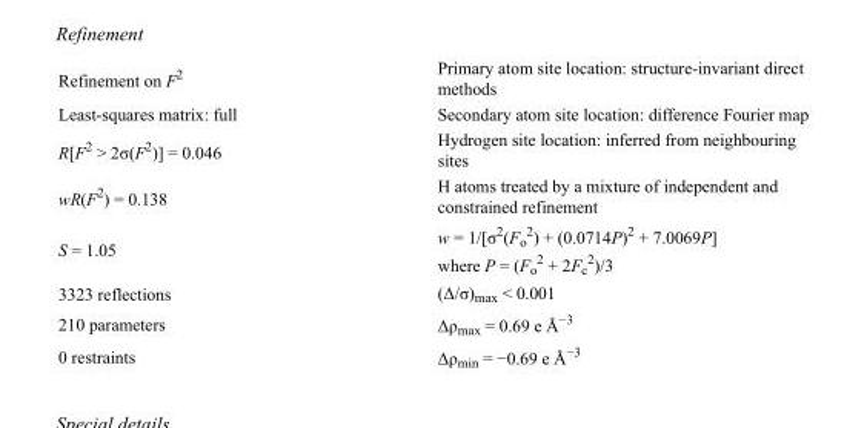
<table><tbody><tr><td>Refinement on F<sup>2</sup></td><td>Primary atom site location: structure-invariant direct methods</td></tr><tr><td>Least-squares matrix: full</td><td>Secondary atom site location: difference Fourier map</td></tr><tr><td>R[F<sup>2</sup> &gt; 2σ(F<sup>2</sup>)] = 0.046</td><td>Hydrogen site location: inferred from neighbouring sites</td></tr><tr><td>wR(F<sup>2</sup>) = 0.138</td><td>H atoms treated by a mixture of independent and constrained refinement</td></tr><tr><td>S = 1.05</td><td>w = 1/[σ<sup>2</sup>(F<sub>o</sub> <sup>2</sup>) + (0.0714P)<sup>2</sup> + 7.0069P] where P = (F<sub>o</sub> <sup>2</sup> + 2F<sub>c</sub> <sup>2</sup>)/3</td></tr><tr><td>3323 reflections</td><td>(Δ/σ)<sub>max</sub> &lt; 0.001</td></tr><tr><td>210 parameters</td><td>Δρ<sub>max</sub> = 0.69 e Å<sup>−3</sup></td></tr><tr><td>0 restraints</td><td>Δρmin = −0.69 e Å−3</td></tr></tbody></table>